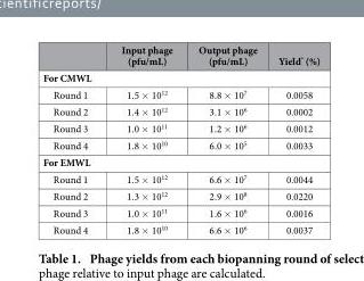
<table><thead><tr><td></td><td>Input phage (pfu/mL)</td><td>Output phage (pfu/mL)</td><td>Yield* (%)</td></tr></thead><tbody><tr><td colspan="4">For CMWL</td></tr><tr><td>Round 1</td><td>1.5 × 10<sup>12</sup></td><td>8.8 × 10<sup>7</sup></td><td>0.0058</td></tr><tr><td>Round 2</td><td>1.4 × 10<sup>12</sup></td><td>3.1 × 10<sup>6</sup></td><td>0.0002</td></tr><tr><td>Round 3</td><td>1.0 × 10<sup>11</sup></td><td>1.2 × 10<sup>6</sup></td><td>0.0012</td></tr><tr><td>Round 4</td><td>1.8 × 10<sup>10</sup></td><td>6.0 × 10<sup>5</sup></td><td>0.0033</td></tr><tr><td colspan="4">For EMWL</td></tr><tr><td>Round 1</td><td>1.5 × 10<sup>12</sup></td><td>6.6 × 10<sup>7</sup></td><td>0.0044</td></tr><tr><td>Round 2</td><td>1.3 × 10<sup>12</sup></td><td>2.9 × 10<sup>8</sup></td><td>0.0220</td></tr><tr><td>Round 3</td><td>1.0 × 10<sup>11</sup></td><td>1.6 × 10<sup>6</sup></td><td>0.0016</td></tr><tr><td>Round 4</td><td>1.8 × 10<sup>10</sup></td><td>6.6 × 10<sup>6</sup></td><td>0.0037</td></tr></tbody></table>